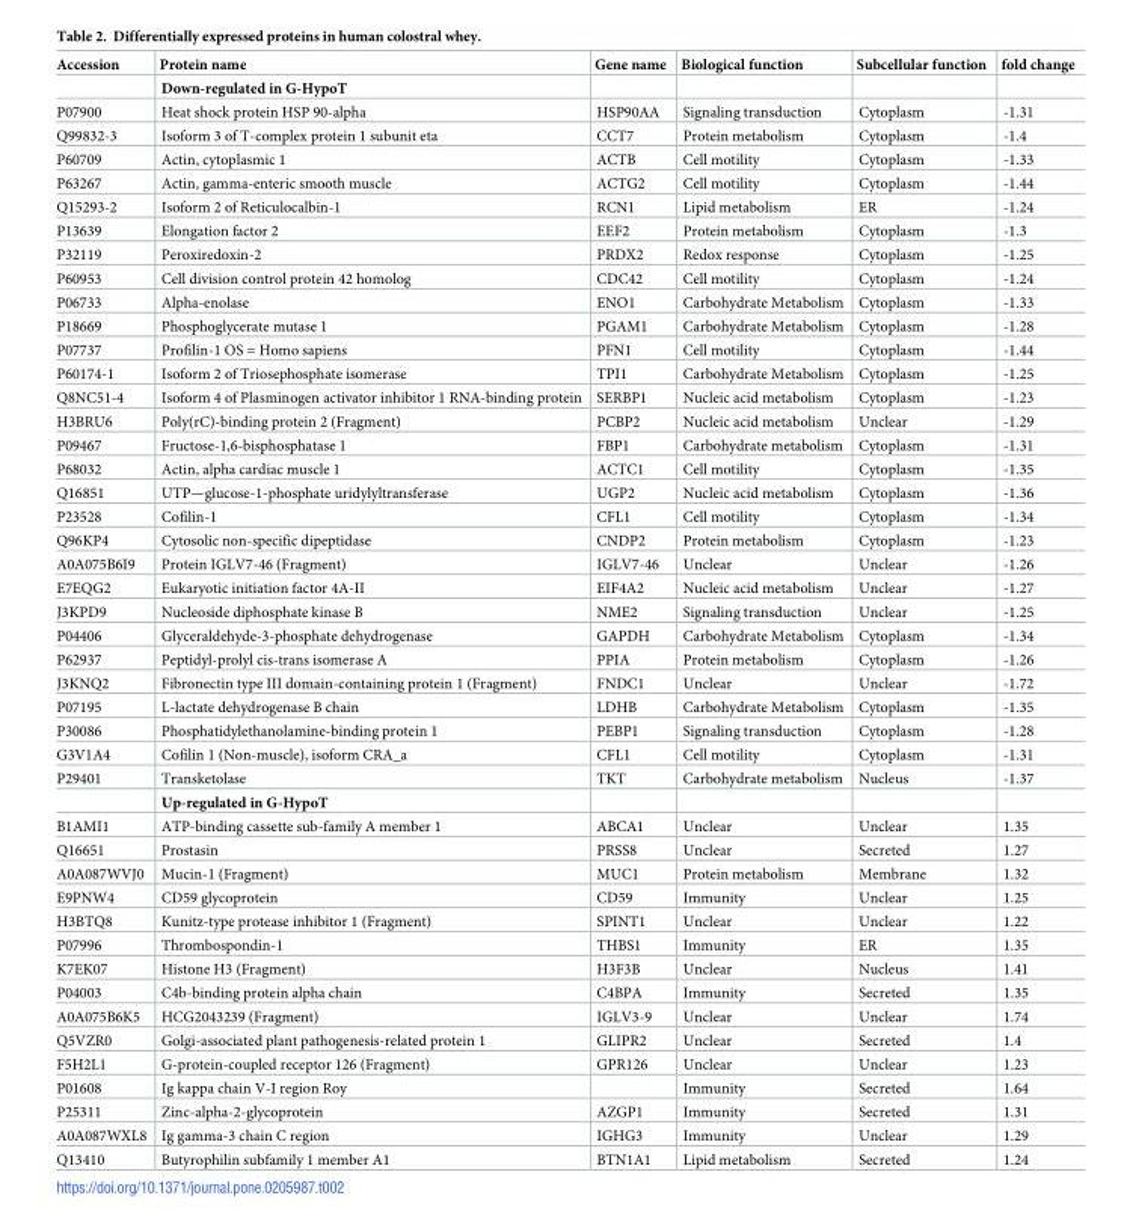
<table><thead><tr><td>Accession</td><td>Protein name</td><td>Gene name</td><td>Biological function</td><td>Subcellular function</td><td>fold change</td></tr></thead><tbody><tr><td></td><td>Down-regulated in G-HypoT</td><td></td><td></td><td></td><td></td></tr><tr><td>P07900</td><td>Heat shock protein HSP 90-alpha</td><td>HSP90AA</td><td>Signaling transduction</td><td>Cytoplasm</td><td>-1.31</td></tr><tr><td>Q99832-3</td><td>Isoform 3 of T-complex protein 1 subunit eta</td><td>CCT7</td><td>Protein metabolism</td><td>Cytoplasm</td><td>-1.4</td></tr><tr><td>P60709</td><td>Actin, cytoplasmic 1</td><td>ACTB</td><td>Cell motility</td><td>Cytoplasm</td><td>-1.33</td></tr><tr><td>P63267</td><td>Actin, gamma-enteric smooth muscle</td><td>ACTG2</td><td>Cell motility</td><td>Cytoplasm</td><td>-1.44</td></tr><tr><td>Q15293-2</td><td>Isoform 2 of Reticulocalbin-1</td><td>RCN1</td><td>Lipid metabolism</td><td>ER</td><td>-1.24</td></tr><tr><td>P13639</td><td>Elongation factor 2</td><td>EEF2</td><td>Protein metabolism</td><td>Cytoplasm</td><td>-1.3</td></tr><tr><td>P32119</td><td>Peroxiredoxin-2</td><td>PRDX2</td><td>Redox response</td><td>Cytoplasm</td><td>-1.25</td></tr><tr><td>P60953</td><td>Cell division control protein 42 homolog</td><td>CDC42</td><td>Cell motility</td><td>Cytoplasm</td><td>-1.24</td></tr><tr><td>P06733</td><td>Alpha-enolase</td><td>ENO1</td><td>Carbohydrate Metabolism</td><td>Cytoplasm</td><td>-1.33</td></tr><tr><td>P18669</td><td>Phosphoglycerate mutase 1</td><td>PGAM1</td><td>Carbohydrate Metabolism</td><td>Cytoplasm</td><td>-1.28</td></tr><tr><td>P07737</td><td>Profilin-1 OS = Homo sapiens</td><td>PFN1</td><td>Cell motility</td><td>Cytoplasm</td><td>-1.44</td></tr><tr><td>P60174-1</td><td>Isoform 2 of Triosephosphate isomerase</td><td>TPI1</td><td>Carbohydrate Metabolism</td><td>Cytoplasm</td><td>-1.25</td></tr><tr><td>Q8NC51-4</td><td>Isoform 4 of Plasminogen activator inhibitor 1 RNA-binding protein</td><td>SERBP1</td><td>Nucleic acid metabolism</td><td>Cytoplasm</td><td>-1.23</td></tr><tr><td>H3BRU6</td><td>Poly(rC)-binding protein 2 (Fragment)</td><td>PCBP2</td><td>Nucleic acid metabolism</td><td>Unclear</td><td>-1.29</td></tr><tr><td>P09467</td><td>Fructose-1,6-bisphosphatase 1</td><td>FBP1</td><td>Carbohydrate metabolism</td><td>Cytoplasm</td><td>-1.31</td></tr><tr><td>P68032</td><td>Actin, alpha cardiac muscle 1</td><td>ACTC1</td><td>Cell motility</td><td>Cytoplasm</td><td>-1.35</td></tr><tr><td>Q16851</td><td>UTP—glucose-1-phosphate uridylyltransferase</td><td>UGP2</td><td>Nucleic acid metabolism</td><td>Cytoplasm</td><td>-1.36</td></tr><tr><td>P23528</td><td>Cofilin-1</td><td>CFL1</td><td>Cell motility</td><td>Cytoplasm</td><td>-1.34</td></tr><tr><td>Q96KP4</td><td>Cytosolic non-specific dipeptidase</td><td>CNDP2</td><td>Protein metabolism</td><td>Cytoplasm</td><td>-1.23</td></tr><tr><td>A0A075B6I9</td><td>Protein IGLV7-46 (Fragment)</td><td>IGLV7-46</td><td>Unclear</td><td>Unclear</td><td>-1.26</td></tr><tr><td>E7EQG2</td><td>Eukaryotic initiation factor 4A-II</td><td>EIF4A2</td><td>Nucleic acid metabolism</td><td>Unclear</td><td>-1.27</td></tr><tr><td>J3KPD9</td><td>Nucleoside diphosphate kinase B</td><td>NME2</td><td>Signaling transduction</td><td>Unclear</td><td>-1.25</td></tr><tr><td>P04406</td><td>Glyceraldehyde-3-phosphate dehydrogenase</td><td>GAPDH</td><td>Carbohydrate Metabolism</td><td>Cytoplasm</td><td>-1.34</td></tr><tr><td>P62937</td><td>Peptidyl-prolyl cis-trans isomerase A</td><td>PPIA</td><td>Protein metabolism</td><td>Cytoplasm</td><td>-1.26</td></tr><tr><td>J3KNQ2</td><td>Fibronectin type III domain-containing protein 1 (Fragment)</td><td>FNDC1</td><td>Unclear</td><td>Unclear</td><td>-1.72</td></tr><tr><td>P07195</td><td>L-lactate dehydrogenase B chain</td><td>LDHB</td><td>Carbohydrate Metabolism</td><td>Cytoplasm</td><td>-1.35</td></tr><tr><td>P30086</td><td>Phosphatidylethanolamine-binding protein 1</td><td>PEBP1</td><td>Signaling transduction</td><td>Cytoplasm</td><td>-1.28</td></tr><tr><td>G3V1A4</td><td>Cofilin 1 (Non-muscle), isoform CRA_a</td><td>CFL1</td><td>Cell motility</td><td>Cytoplasm</td><td>-1.31</td></tr><tr><td rowspan="2">P29401</td><td>Transketolase</td><td>TKT</td><td>Carbohydrate metabolism</td><td>Nucleus</td><td>-1.37</td></tr><tr><td>Up-regulated in G-HypoT</td><td></td><td></td><td></td><td></td></tr><tr><td>B1AMI1</td><td>ATP-binding cassette sub-family A member 1</td><td>ABCA1</td><td>Unclear</td><td>Unclear</td><td>1.35</td></tr><tr><td>Q16651</td><td>Prostasin</td><td>PRSS8</td><td>Unclear</td><td>Secreted</td><td>1.27</td></tr><tr><td>A0A087WVJ0</td><td>Mucin-1 (Fragment)</td><td>MUC1</td><td>Protein metabolism</td><td>Membrane</td><td>1.32</td></tr><tr><td>E9PNW4</td><td>CD59 glycoprotein</td><td>CD59</td><td>Immunity</td><td>Unclear</td><td>1.25</td></tr><tr><td>H3BTQ8</td><td>Kunitz-type protease inhibitor 1 (Fragment)</td><td>SPINT1</td><td>Unclear</td><td>Unclear</td><td>1.22</td></tr><tr><td>P07996</td><td>Thrombospondin-1</td><td>THBS1</td><td>Immunity</td><td>ER</td><td>1.35</td></tr><tr><td>K7EK07</td><td>Histone H3 (Fragment)</td><td>H3F3B</td><td>Unclear</td><td>Nucleus</td><td>1.41</td></tr><tr><td>P04003</td><td>C4b-binding protein alpha chain</td><td>C4BPA</td><td>Immunity</td><td>Secreted</td><td>1.35</td></tr><tr><td>A0A075B6K5</td><td>HCG2043239 (Fragment)</td><td>IGLV3-9</td><td>Unclear</td><td>Unclear</td><td>1.74</td></tr><tr><td>Q5VZR0</td><td>Golgi-associated plant pathogenesis-related protein 1</td><td>GLIPR2</td><td>Unclear</td><td>Secreted</td><td>1.4</td></tr><tr><td>F5H2L1</td><td>G-protein-coupled receptor 126 (Fragment)</td><td>GPR126</td><td>Unclear</td><td>Unclear</td><td>1.23</td></tr><tr><td>P01608</td><td>Ig kappa chain V-I region Roy</td><td></td><td>Immunity</td><td>Secreted</td><td>1.64</td></tr><tr><td>P25311</td><td>Zinc-alpha-2-glycoprotein</td><td>AZGP1</td><td>Immunity</td><td>Secreted</td><td>1.31</td></tr><tr><td>A0A087WXL8</td><td>Ig gamma-3 chain C region</td><td>IGHG3</td><td>Immunity</td><td>Unclear</td><td>1.29</td></tr><tr><td>Q13410</td><td>Butyrophilin subfamily 1 member A1</td><td>BTN1A1</td><td>Lipid metabolism</td><td>Secreted</td><td>1.24</td></tr></tbody></table>